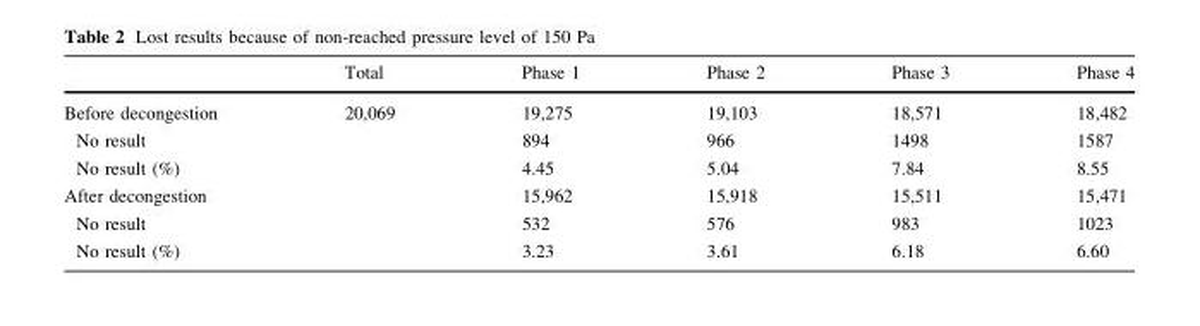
<table><thead><tr><td></td><td>Total</td><td>Phase 1</td><td>Phase 2</td><td>Phase 3</td><td>Phase 4</td></tr></thead><tbody><tr><td>Before decongestion</td><td>20,069</td><td>19,275</td><td>19,103</td><td>18,571</td><td>18,482</td></tr><tr><td>No result</td><td></td><td>894</td><td>966</td><td>1498</td><td>1587</td></tr><tr><td>No result (%)</td><td></td><td>4.45</td><td>5.04</td><td>7.84</td><td>8.55</td></tr><tr><td>After decongestion</td><td></td><td>15,962</td><td>15,918</td><td>15,511</td><td>15,471</td></tr><tr><td>No result</td><td></td><td>532</td><td>576</td><td>983</td><td>1023</td></tr><tr><td>No result (%)</td><td></td><td>3.23</td><td>3.61</td><td>6.18</td><td>6.60</td></tr></tbody></table>